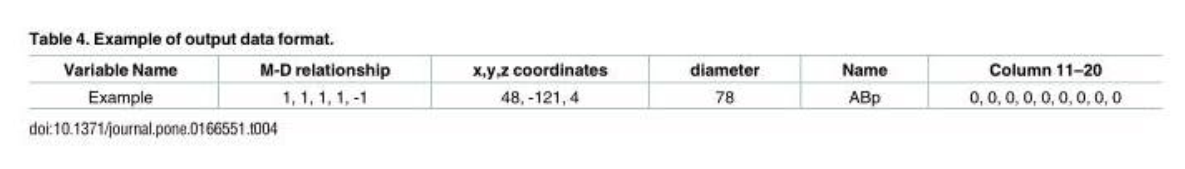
<table><thead><tr><td>Variable Name</td><td>M-D relationship</td><td>x,y,z coordinates</td><td>diameter</td><td>Name</td><td>Column 11–20</td></tr></thead><tbody><tr><td>Example</td><td>1, 1, 1, 1, -1</td><td>48, -121, 4</td><td>78</td><td>ABp</td><td>0, 0, 0, 0, 0, 0, 0, 0, 0</td></tr></tbody></table>